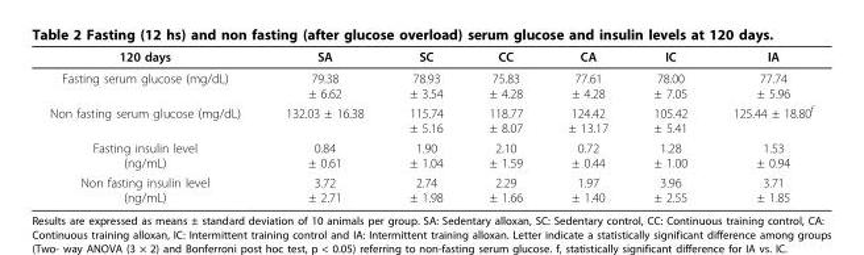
<table><thead><tr><td>120 days</td><td>SA</td><td>SC</td><td>CC</td><td>CA</td><td>IC</td><td>IA</td></tr></thead><tbody><tr><td>Fasting serum glucose (mg/dL)</td><td>79.38 ± 6.62</td><td>78.93 ± 3.54</td><td>75.83 ± 4.28</td><td>77.61 ± 4.28</td><td>78.00 ± 7.05</td><td>77.74 ± 5.96</td></tr><tr><td>Non fasting serum glucose (mg/dL)</td><td>132.03 ± 16.38</td><td>115.74 ± 5.16</td><td>118.77 ± 8.07</td><td>124.42 ± 13.17</td><td>105.42 ± 5.41</td><td>125.44 ± 18.80<sup>f</sup></td></tr><tr><td>Fasting insulin level (ng/mL)</td><td>0.84 ± 0.61</td><td>1.90 ± 1.04</td><td>2.10 ± 1.59</td><td>0.72 ± 0.44</td><td>1.28 ± 1.00</td><td>1.53 ± 0.94</td></tr><tr><td>Non fasting insulin level (ng/mL)</td><td>3.72 ± 2.71</td><td>2.74 ± 1.98</td><td>2.29 ± 1.66</td><td>1.97 ± 1.40</td><td>3.96 ± 2.55</td><td>3.71 ± 1.85</td></tr></tbody></table>